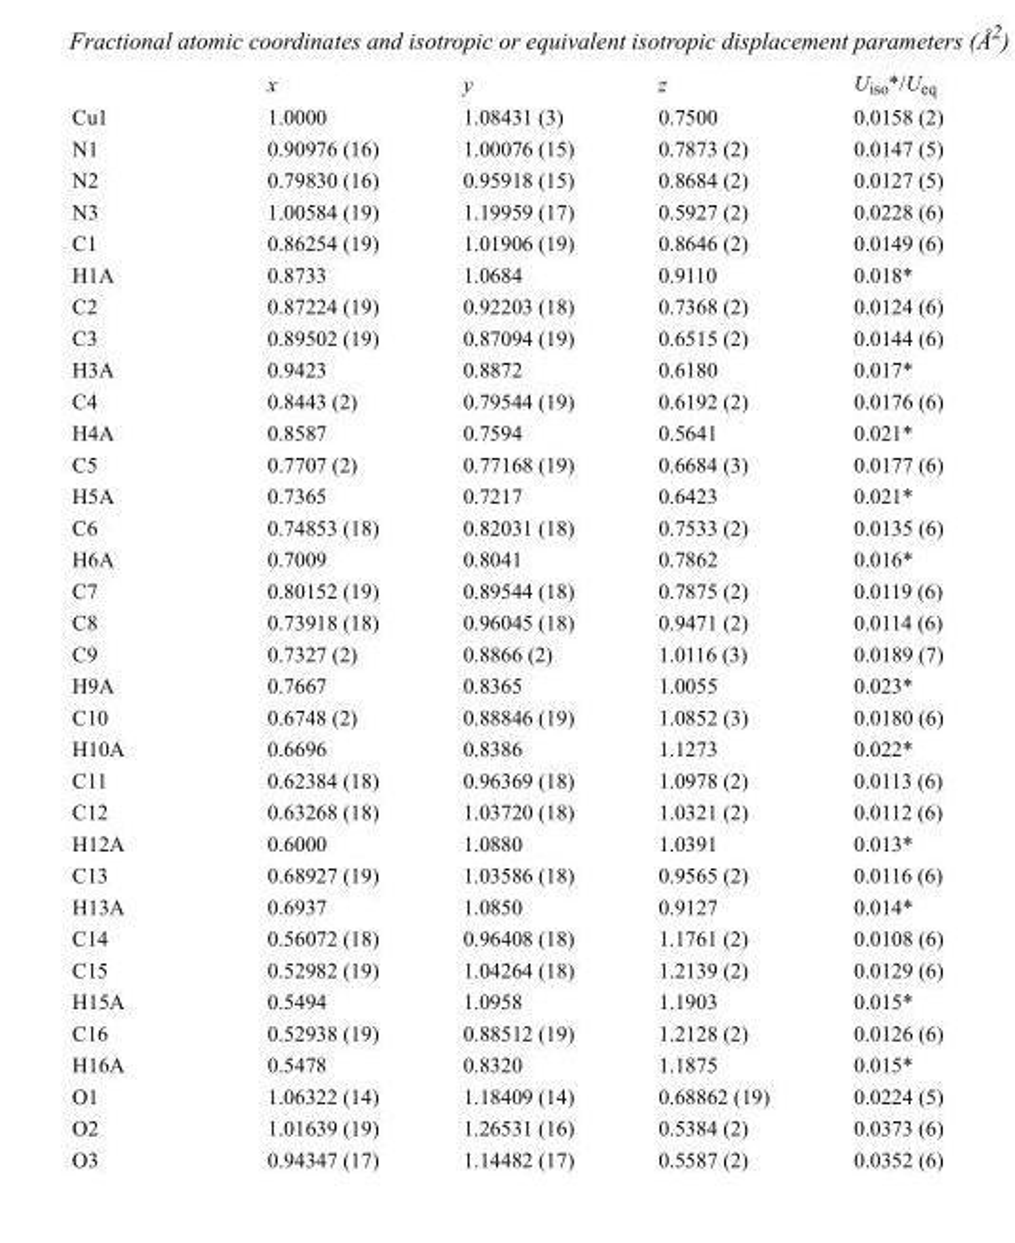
<table><thead><tr><td></td><td>x</td><td>y</td><td>z</td><td>U<sub>iso</sub>*/U<sub>eq</sub></td></tr></thead><tbody><tr><td>Cu1</td><td>1.0000</td><td>1.08431 (3)</td><td>0.7500</td><td>0.0158 (2)</td></tr><tr><td>N1</td><td>0.90976 (16)</td><td>1.00076 (15)</td><td>0.7873 (2)</td><td>0.0147 (5)</td></tr><tr><td>N2</td><td>0.79830 (16)</td><td>0.95918 (15)</td><td>0.8684 (2)</td><td>0.0127 (5)</td></tr><tr><td>N3</td><td>1.00584 (19)</td><td>1.19959 (17)</td><td>0.5927 (2)</td><td>0.0228 (6)</td></tr><tr><td>C1</td><td>0.86254 (19)</td><td>1.01906 (19)</td><td>0.8646 (2)</td><td>0.0149 (6)</td></tr><tr><td>H1A</td><td>0.8733</td><td>1.0684</td><td>0.9110</td><td>0.018*</td></tr><tr><td>C2</td><td>0.87224 (19)</td><td>0.92203 (18)</td><td>0.7368 (2)</td><td>0.0124 (6)</td></tr><tr><td>C3</td><td>0.89502 (19)</td><td>0.87094 (19)</td><td>0.6515 (2)</td><td>0.0144 (6)</td></tr><tr><td>H3A</td><td>0.9423</td><td>0.8872</td><td>0.6180</td><td>0.017*</td></tr><tr><td>C4</td><td>0.8443 (2)</td><td>0.79544 (19)</td><td>0.6192 (2)</td><td>0.0176 (6)</td></tr><tr><td>H4A</td><td>0.8587</td><td>0.7594</td><td>0.5641</td><td>0.021*</td></tr><tr><td>C5</td><td>0.7707 (2)</td><td>0.77168 (19)</td><td>0.6684 (3)</td><td>0.0177 (6)</td></tr><tr><td>H5A</td><td>0.7365</td><td>0.7217</td><td>0.6423</td><td>0.021*</td></tr><tr><td>C6</td><td>0.74853 (18)</td><td>0.82031 (18)</td><td>0.7533 (2)</td><td>0.0135 (6)</td></tr><tr><td>H6A</td><td>0.7009</td><td>0.8041</td><td>0.7862</td><td>0.016*</td></tr><tr><td>C7</td><td>0.80152 (19)</td><td>0.89544 (18)</td><td>0.7875 (2)</td><td>0.0119 (6)</td></tr><tr><td>C8</td><td>0.73918 (18)</td><td>0.96045 (18)</td><td>0.9471 (2)</td><td>0.0114 (6)</td></tr><tr><td>C9</td><td>0.7327 (2)</td><td>0.8866 (2)</td><td>1.0116 (3)</td><td>0.0189 (7)</td></tr><tr><td>H9A</td><td>0.7667</td><td>0.8365</td><td>1.0055</td><td>0.023*</td></tr><tr><td>C10</td><td>0.6748 (2)</td><td>0.88846 (19)</td><td>1.0852 (3)</td><td>0.0180 (6)</td></tr><tr><td>H10A</td><td>0.6696</td><td>0.8386</td><td>1.1273</td><td>0.022*</td></tr><tr><td>C11</td><td>0.62384 (18)</td><td>0.96369 (18)</td><td>1.0978 (2)</td><td>0.0113 (6)</td></tr><tr><td>C12</td><td>0.63268 (18)</td><td>1.03720 (18)</td><td>1.0321 (2)</td><td>0.0112 (6)</td></tr><tr><td>H12A</td><td>0.6000</td><td>1.0880</td><td>1.0391</td><td>0.013*</td></tr><tr><td>C13</td><td>0.68927 (19)</td><td>1.03586 (18)</td><td>0.9565 (2)</td><td>0.0116 (6)</td></tr><tr><td>H13A</td><td>0.6937</td><td>1.0850</td><td>0.9127</td><td>0.014*</td></tr><tr><td>C14</td><td>0.56072 (18)</td><td>0.96408 (18)</td><td>1.1761 (2)</td><td>0.0108 (6)</td></tr><tr><td>C15</td><td>0.52982 (19)</td><td>1.04264 (18)</td><td>1.2139 (2)</td><td>0.0129 (6)</td></tr><tr><td>H15A</td><td>0.5494</td><td>1.0958</td><td>1.1903</td><td>0.015*</td></tr><tr><td>C16</td><td>0.52938 (19)</td><td>0.88512 (19)</td><td>1.2128 (2)</td><td>0.0126 (6)</td></tr><tr><td>H16A</td><td>0.5478</td><td>0.8320</td><td>1.1875</td><td>0.015*</td></tr><tr><td>O1</td><td>1.06322 (14)</td><td>1.18409 (14)</td><td>0.68862 (19)</td><td>0.0224 (5)</td></tr><tr><td>O2</td><td>1.01639 (19)</td><td>1.26531 (16)</td><td>0.5384 (2)</td><td>0.0373 (6)</td></tr><tr><td>O3</td><td>0.94347 (17)</td><td>1.14482 (17)</td><td>0.5587 (2)</td><td>0.0352 (6)</td></tr></tbody></table>